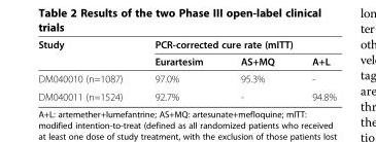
<table><thead><tr><td rowspan="2">Study</td><td colspan="3">PCR-corrected cure rate (mITT)</td></tr><tr><td>Eurartesim</td><td>AS+MQ</td><td>A+L</td></tr></thead><tbody><tr><td>DM040010 (n=1087)</td><td>97.0%</td><td>95.3%</td><td>-</td></tr><tr><td>DM040011 (n=1524)</td><td>92.7%</td><td>-</td><td>94.8%</td></tr></tbody></table>